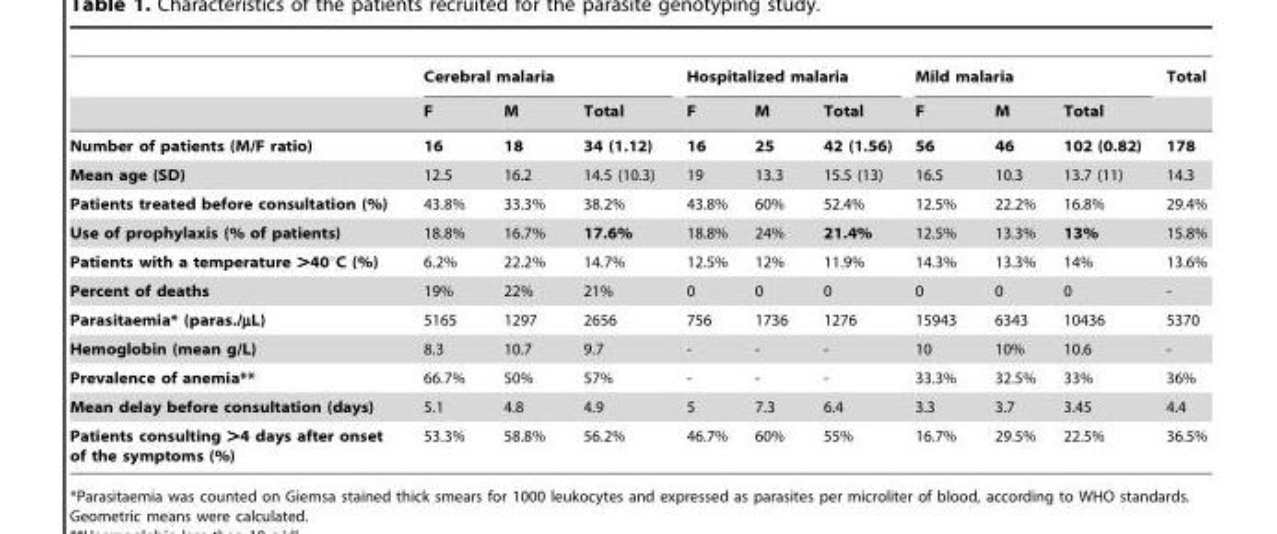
<table><thead><tr><td rowspan="2"></td><td colspan="3">Cerebral malaria</td><td colspan="3">Hospitalized malaria</td><td colspan="3">Mild malaria</td><td rowspan="2">Total</td></tr><tr><td>F</td><td>M</td><td>Total</td><td>F</td><td>M</td><td>Total</td><td>F</td><td>M</td><td>Total</td></tr></thead><tbody><tr><td>Number of patients (M/F ratio)</td><td>16</td><td>18</td><td>34 (1.12)</td><td>16</td><td>25</td><td>42 (1.56)</td><td>56</td><td>46</td><td>102 (0.82)</td><td>178</td></tr><tr><td>Mean age (SD)</td><td>12.5</td><td>16.2</td><td>14.5 (10.3)</td><td>19</td><td>13.3</td><td>15.5 (13)</td><td>16.5</td><td>10.3</td><td>13.7 (11)</td><td>14.3</td></tr><tr><td>Patients treated before consultation (%)</td><td>43.8%</td><td>33.3%</td><td>38.2%</td><td>43.8%</td><td>60%</td><td>52.4%</td><td>12.5%</td><td>22.2%</td><td>16.8%</td><td>29.4%</td></tr><tr><td>Use of prophylaxis (% of patients)</td><td>18.8%</td><td>16.7%</td><td>17.6%</td><td>18.8%</td><td>24%</td><td>21.4%</td><td>12.5%</td><td>13.3%</td><td>13%</td><td>15.8%</td></tr><tr><td>Patients with a temperature &gt;40°C (%)</td><td>6.2%</td><td>22.2%</td><td>14.7%</td><td>12.5%</td><td>12%</td><td>11.9%</td><td>14.3%</td><td>13.3%</td><td>14%</td><td>13.6%</td></tr><tr><td>Percent of deaths</td><td>19%</td><td>22%</td><td>21%</td><td>0</td><td>0</td><td>0</td><td>0</td><td>0</td><td>0</td><td>-</td></tr><tr><td>Parasitaemia* (paras./µL)</td><td>5165</td><td>1297</td><td>2656</td><td>756</td><td>1736</td><td>1276</td><td>15943</td><td>6343</td><td>10436</td><td>5370</td></tr><tr><td>Hemoglobin (mean g/L)</td><td>8.3</td><td>10.7</td><td>9.7</td><td>-</td><td>-</td><td>-</td><td>10</td><td>10%</td><td>10.6</td><td>-</td></tr><tr><td>Prevalence of anemia**</td><td>66.7%</td><td>50%</td><td>57%</td><td>-</td><td>-</td><td>-</td><td>33.3%</td><td>32.5%</td><td>33%</td><td>36%</td></tr><tr><td>Mean delay before consultation (days)</td><td>5.1</td><td>4.8</td><td>4.9</td><td>5</td><td>7.3</td><td>6.4</td><td>3.3</td><td>3.7</td><td>3.45</td><td>4.4</td></tr><tr><td>Patients consulting &gt;4 days after onset of the symptoms (%)</td><td>53.3%</td><td>58.8%</td><td>56.2%</td><td>46.7%</td><td>60%</td><td>55%</td><td>16.7%</td><td>29.5%</td><td>22.5%</td><td>36.5%</td></tr></tbody></table>